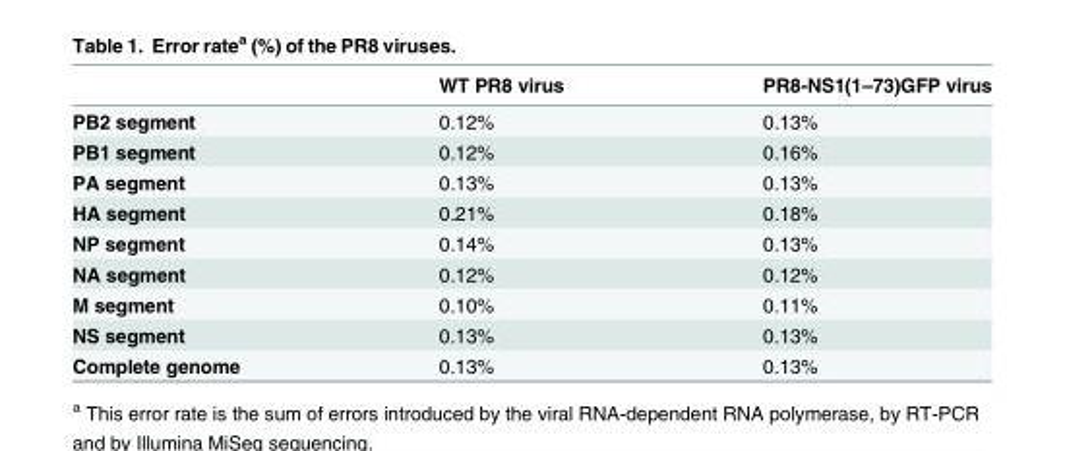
<table><thead><tr><td></td><td>WT PR8 virus</td><td>PR8-NS1(1–73)GFP virus</td></tr></thead><tbody><tr><td>PB2 segment</td><td>0.12%</td><td>0.13%</td></tr><tr><td>PB1 segment</td><td>0.12%</td><td>0.16%</td></tr><tr><td>PA segment</td><td>0.13%</td><td>0.13%</td></tr><tr><td>HA segment</td><td>0.21%</td><td>0.18%</td></tr><tr><td>NP segment</td><td>0.14%</td><td>0.13%</td></tr><tr><td>NA segment</td><td>0.12%</td><td>0.12%</td></tr><tr><td>M segment</td><td>0.10%</td><td>0.11%</td></tr><tr><td>NS segment</td><td>0.13%</td><td>0.13%</td></tr><tr><td>Complete genome</td><td>0.13%</td><td>0.13%</td></tr></tbody></table>